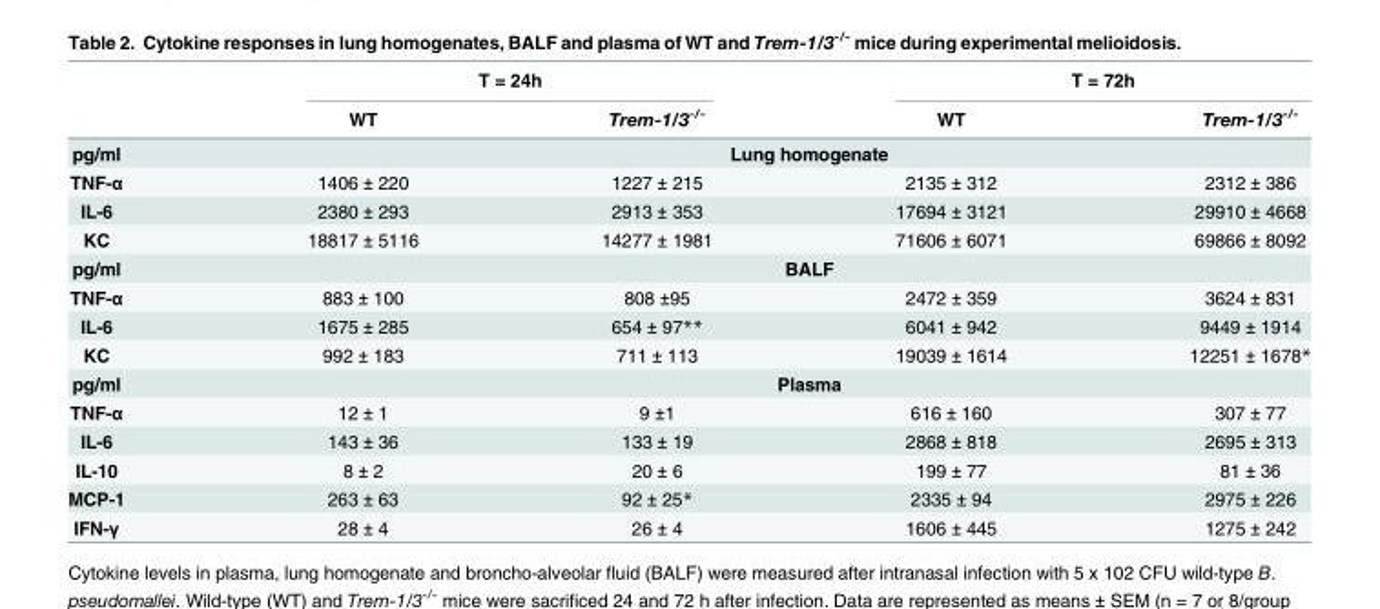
<table><thead><tr><td rowspan="2"></td><td colspan="2">T = 24h</td><td colspan="2">T = 72h</td></tr><tr><td>WT</td><td>Trem-1/3<sup>-/-</sup></td><td>WT</td><td>Trem-1/3<sup>-/-</sup></td></tr></thead><tbody><tr><td>pg/ml</td><td colspan="4">Lung homogenate</td></tr><tr><td>TNF-α</td><td>1406 ± 220</td><td>1227 ± 215</td><td>2135 ± 312</td><td>2312 ± 386</td></tr><tr><td>IL-6</td><td>2380 ± 293</td><td>2913 ± 353</td><td>17694 ± 3121</td><td>29910 ± 4668</td></tr><tr><td>KC</td><td>18817 ± 5116</td><td>14277 ± 1981</td><td>71606 ± 6071</td><td>69866 ± 8092</td></tr><tr><td>pg/ml</td><td colspan="4">BALF</td></tr><tr><td>TNF-α</td><td>883 ± 100</td><td>808 ±95</td><td>2472 ± 359</td><td>3624 ± 831</td></tr><tr><td>IL-6</td><td>1675 ± 285</td><td>654 ± 97**</td><td>6041 ± 942</td><td>9449 ± 1914</td></tr><tr><td>KC</td><td>992 ± 183</td><td>711 ± 113</td><td>19039 ± 1614</td><td>12251 ± 1678*</td></tr><tr><td>pg/ml</td><td colspan="4">Plasma</td></tr><tr><td>TNF-α</td><td>12 ± 1</td><td>9 ±1</td><td>616 ± 160</td><td>307 ± 77</td></tr><tr><td>IL-6</td><td>143 ± 36</td><td>133 ± 19</td><td>2868 ± 818</td><td>2695 ± 313</td></tr><tr><td>IL-10</td><td>8 ± 2</td><td>20 ± 6</td><td>199 ± 77</td><td>81 ± 36</td></tr><tr><td>MCP-1</td><td>263 ± 63</td><td>92 ± 25*</td><td>2335 ± 94</td><td>2975 ± 226</td></tr><tr><td>IFN-γ</td><td>28 ± 4</td><td>26 ± 4</td><td>1606 ± 445</td><td>1275 ± 242</td></tr></tbody></table>